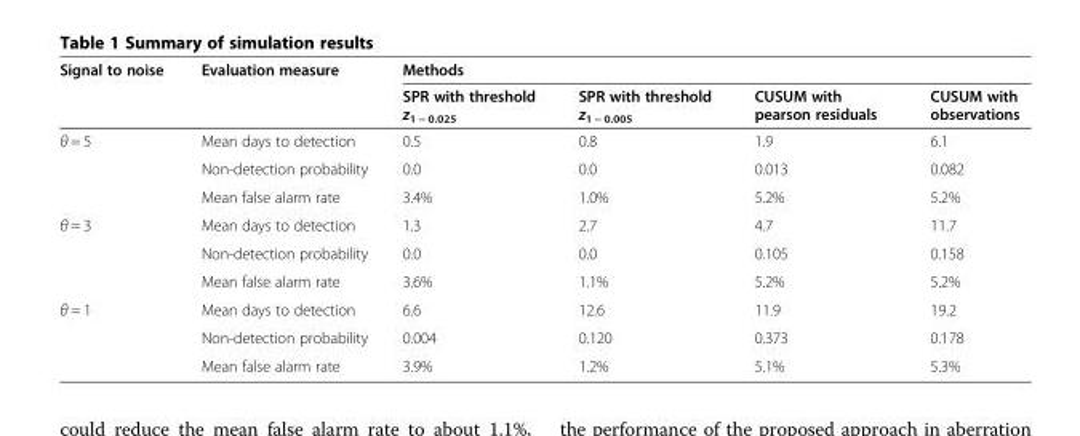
<table><thead><tr><td rowspan="2">Signal to noise</td><td rowspan="2">Evaluation measure</td><td colspan="4">Methods</td></tr><tr><td>SPR with threshold z<sub>1 − 0.025</sub></td><td>SPR with threshold z<sub>1 − 0.005</sub></td><td>CUSUM with pearson residuals</td><td>CUSUM with observations</td></tr></thead><tbody><tr><td rowspan="3">θ = 5</td><td>Mean days to detection</td><td>0.5</td><td>0.8</td><td>1.9</td><td>6.1</td></tr><tr><td>Non-detection probability</td><td>0.0</td><td>0.0</td><td>0.013</td><td>0.082</td></tr><tr><td>Mean false alarm rate</td><td>3.4%</td><td>1.0%</td><td>5.2%</td><td>5.2%</td></tr><tr><td rowspan="3">θ = 3</td><td>Mean days to detection</td><td>1.3</td><td>2.7</td><td>4.7</td><td>11.7</td></tr><tr><td>Non-detection probability</td><td>0.0</td><td>0.0</td><td>0.105</td><td>0.158</td></tr><tr><td>Mean false alarm rate</td><td>3.6%</td><td>1.1%</td><td>5.2%</td><td>5.2%</td></tr><tr><td rowspan="3">θ = 1</td><td>Mean days to detection</td><td>6.6</td><td>12.6</td><td>11.9</td><td>19.2</td></tr><tr><td>Non-detection probability</td><td>0.004</td><td>0.120</td><td>0.373</td><td>0.178</td></tr><tr><td>Mean false alarm rate</td><td>3.9%</td><td>1.2%</td><td>5.1%</td><td>5.3%</td></tr></tbody></table>